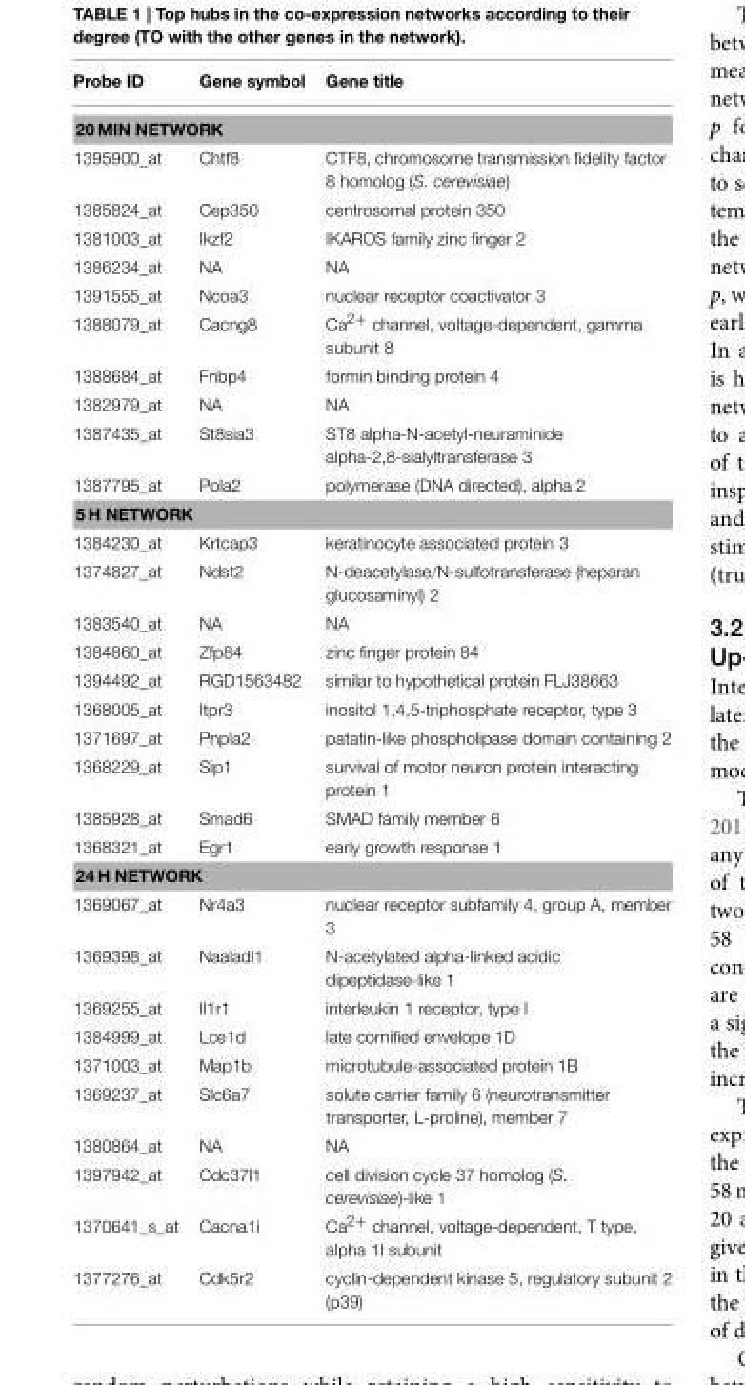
<table><thead><tr><td>Probe ID</td><td>Gene symbol</td><td>Gene title</td></tr></thead><tbody><tr><td colspan="3">20 MIN NETWORK</td></tr><tr><td>1395900_at</td><td>Chtf8</td><td>CTF8, chromosome transmission fidelity factor 8 homolog (S. cerevisiae)</td></tr><tr><td>1385824_at</td><td>Cep350</td><td>centrosomal protein 350</td></tr><tr><td>1381003_at</td><td>Ikzf2</td><td>IKAROS family zinc finger 2</td></tr><tr><td>1386234_at</td><td>NA</td><td>NA</td></tr><tr><td>1391555_at</td><td>Ncoa3</td><td>nuclear receptor coactivator 3</td></tr><tr><td>1388079_at</td><td>Cacng8</td><td>Ca<sup>2+</sup> channel, voltage-dependent, gamma subunit 8</td></tr><tr><td>1388684_at</td><td>Fnbp4</td><td>formin binding protein 4</td></tr><tr><td>1382979_at</td><td>NA</td><td>NA</td></tr><tr><td>1387435_at</td><td>St8sia3</td><td>ST8 alpha-N-acetyl-neuraminide alpha-2,8-sialyltransferase 3</td></tr><tr><td>1387795_at</td><td>Pola2</td><td>polymerase (DNA directed), alpha 2</td></tr><tr><td colspan="3">5 H NETWORK</td></tr><tr><td>1384230_at</td><td>Krtcap3</td><td>keratinocyte associated protein 3</td></tr><tr><td>1374827_at</td><td>Ndst2</td><td>N-deacetylase/N-sulfotransferase (heparan glucosaminyl) 2</td></tr><tr><td>1383540_at</td><td>NA</td><td>NA</td></tr><tr><td>1384860_at</td><td>Zfp84</td><td>zinc finger protein 84</td></tr><tr><td>1394492_at</td><td>RGD1563482</td><td>similar to hypothetical protein FLJ38663</td></tr><tr><td>1368005_at</td><td>Itpr3</td><td>inositol 1,4,5-triphosphate receptor, type 3</td></tr><tr><td>1371697_at</td><td>Pnpla2</td><td>patatin-like phospholipase domain containing 2</td></tr><tr><td>1368229_at</td><td>Sip1</td><td>survival of motor neuron protein interacting protein 1</td></tr><tr><td>1385928_at</td><td>Smad6</td><td>SMAD family member 6</td></tr><tr><td>1368321_at</td><td>Egr1</td><td>early growth response 1</td></tr><tr><td colspan="3">24 H NETWORK</td></tr><tr><td>1369067_at</td><td>Nr4a3</td><td>nuclear receptor subfamily 4, group A, member 3</td></tr><tr><td>1369398_at</td><td>Naaladl1</td><td>N-acetylated alpha-linked acidic dipeptidase-like 1</td></tr><tr><td>1369255_at</td><td>Il1r1</td><td>interleukin 1 receptor, type I</td></tr><tr><td>1384999_at</td><td>Lce1d</td><td>late cornified envelope 1D</td></tr><tr><td>1371003_at</td><td>Map1b</td><td>microtubule-associated protein 1B</td></tr><tr><td>1369237_at</td><td>Slc6a7</td><td>solute carrier family 6 (neurotransmitter transporter, L-proline), member 7</td></tr><tr><td>1380864_at</td><td>NA</td><td>NA</td></tr><tr><td>1397942_at</td><td>Cdc37l1</td><td>cell division cycle 37 homolog (S. cerevisiae)-like 1</td></tr><tr><td>1370641_s_at</td><td>Cacna1i</td><td>Ca<sup>2+</sup> channel, voltage-dependent, T type, alpha 1I subunit</td></tr><tr><td>1377276_at</td><td>Cdk5r2</td><td>cyclin-dependent kinase 5, regulatory subunit 2 (p39)</td></tr></tbody></table>